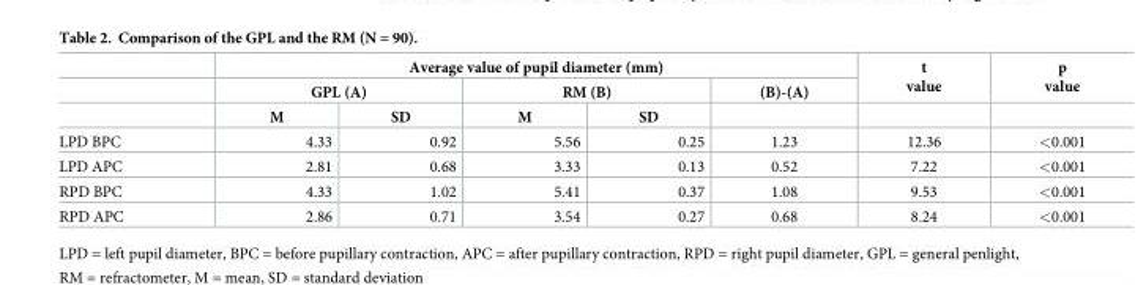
<table><thead><tr><td rowspan="3"></td><td colspan="5">Average value of pupil diameter (mm)</td><td rowspan="3">t value</td><td rowspan="3">p value</td></tr><tr><td colspan="2">GPL (A)</td><td colspan="2">RM (B)</td><td rowspan="2">(B)-(A)</td></tr><tr><td>M</td><td>SD</td><td>M</td><td>SD</td></tr></thead><tbody><tr><td>LPD BPC</td><td>4.33</td><td>0.92</td><td>5.56</td><td>0.25</td><td>1.23</td><td>12.36</td><td>&lt;0.001</td></tr><tr><td>LPD APC</td><td>2.81</td><td>0.68</td><td>3.33</td><td>0.13</td><td>0.52</td><td>7.22</td><td>&lt;0.001</td></tr><tr><td>RPD BPC</td><td>4.33</td><td>1.02</td><td>5.41</td><td>0.37</td><td>1.08</td><td>9.53</td><td>&lt;0.001</td></tr><tr><td>RPD APC</td><td>2.86</td><td>0.71</td><td>3.54</td><td>0.27</td><td>0.68</td><td>8.24</td><td>&lt;0.001</td></tr></tbody></table>